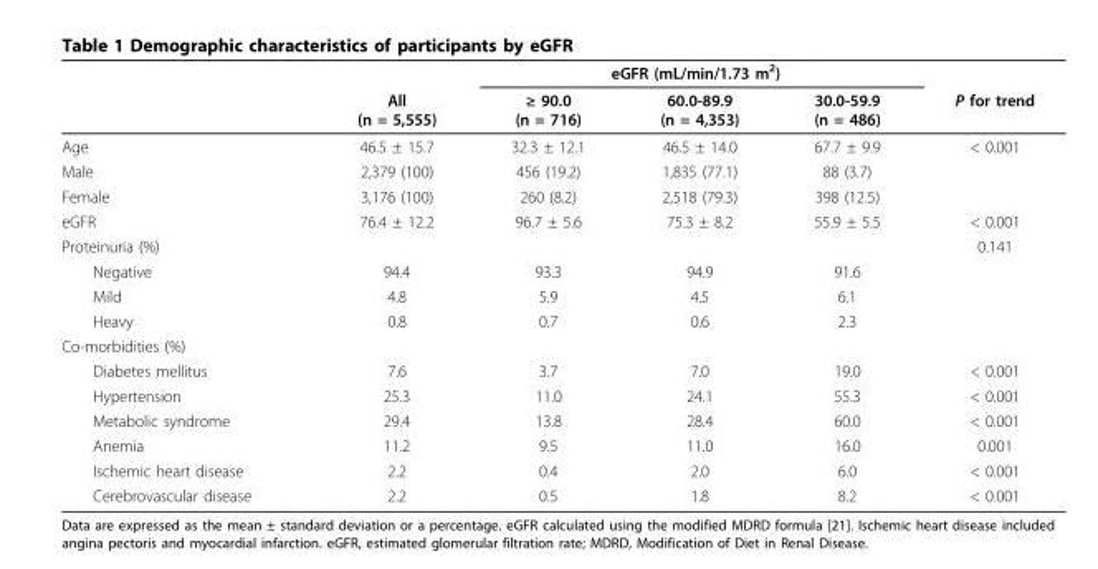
<table><thead><tr><td rowspan="2"></td><td rowspan="2">All (n = 5,555)</td><td colspan="3">eGFR (mL/min/1.73 m<sup>2</sup>)</td><td rowspan="2">P for trend</td></tr><tr><td>≥ 90.0 (n = 716)</td><td>60.0-89.9 (n = 4,353)</td><td>30.0-59.9 (n = 486)</td></tr></thead><tbody><tr><td>Age</td><td>46.5 ± 15.7</td><td>32.3 ± 12.1</td><td>46.5 ± 14.0</td><td>67.7 ± 9.9</td><td>&lt; 0.001</td></tr><tr><td>Male</td><td>2,379 (100)</td><td>456 (19.2)</td><td>1,835 (77.1)</td><td>88 (3.7)</td><td></td></tr><tr><td>Female</td><td>3,176 (100)</td><td>260 (8.2)</td><td>2,518 (79.3)</td><td>398 (12.5)</td><td></td></tr><tr><td>eGFR</td><td>76.4 ± 12.2</td><td>96.7 ± 5.6</td><td>75.3 ± 8.2</td><td>55.9 ± 5.5</td><td>&lt; 0.001</td></tr><tr><td>Proteinuria (%)</td><td></td><td></td><td></td><td></td><td>0.141</td></tr><tr><td>Negative</td><td>94.4</td><td>93.3</td><td>94.9</td><td>91.6</td><td></td></tr><tr><td>Mild</td><td>4.8</td><td>5.9</td><td>4.5</td><td>6.1</td><td></td></tr><tr><td>Heavy</td><td>0.8</td><td>0.7</td><td>0.6</td><td>2.3</td><td></td></tr><tr><td colspan="6">Co-morbidities (%)</td></tr><tr><td>Diabetes mellitus</td><td>7.6</td><td>3.7</td><td>7.0</td><td>19.0</td><td>&lt; 0.001</td></tr><tr><td>Hypertension</td><td>25.3</td><td>11.0</td><td>24.1</td><td>55.3</td><td>&lt; 0.001</td></tr><tr><td>Metabolic syndrome</td><td>29.4</td><td>13.8</td><td>28.4</td><td>60.0</td><td>&lt; 0.001</td></tr><tr><td>Anemia</td><td>11.2</td><td>9.5</td><td>11.0</td><td>16.0</td><td>0.001</td></tr><tr><td>Ischemic heart disease</td><td>2.2</td><td>0.4</td><td>2.0</td><td>6.0</td><td>&lt; 0.001</td></tr><tr><td>Cerebrovascular disease</td><td>2.2</td><td>0.5</td><td>1.8</td><td>8.2</td><td>&lt; 0.001</td></tr></tbody></table>